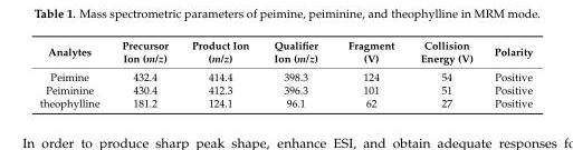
<table><thead><tr><td>Analytes</td><td>Precursor Ion (m/z)</td><td>Product Ion (m/z)</td><td>Qualifier Ion (m/z)</td><td>Fragment (V)</td><td>Collision Energy (V)</td><td>Polarity</td></tr></thead><tbody><tr><td>Peimine</td><td>432.4</td><td>414.4</td><td>398.3</td><td>124</td><td>54</td><td>Positive</td></tr><tr><td>Peiminine</td><td>430.4</td><td>412.3</td><td>396.3</td><td>101</td><td>51</td><td>Positive</td></tr><tr><td>theophylline</td><td>181.2</td><td>124.1</td><td>96.1</td><td>62</td><td>27</td><td>Positive</td></tr></tbody></table>